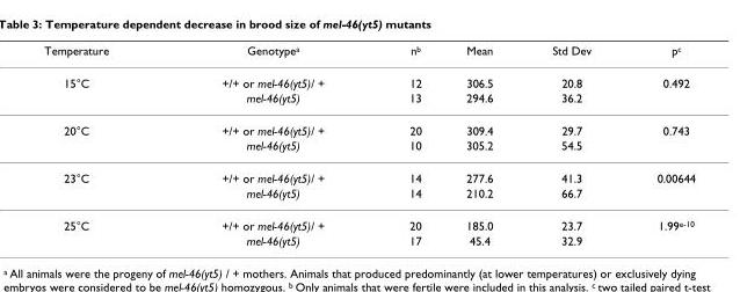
<table><thead><tr><td>Temperature</td><td>Genotype<sup>a</sup></td><td>n<sup>b</sup></td><td>Mean</td><td>Std Dev</td><td>p<sup>c</sup></td></tr></thead><tbody><tr><td rowspan="2">15°C</td><td>+/+ or mel-46(yt5)/ +</td><td>12</td><td>306.5</td><td>20.8</td><td>0.492</td></tr><tr><td>mel-46(yt5)</td><td>13</td><td>294.6</td><td>36.2</td><td></td></tr><tr><td rowspan="2">20°C</td><td>+/+ or mel-46(yt5)/ +</td><td>20</td><td>309.4</td><td>29.7</td><td>0.743</td></tr><tr><td>mel-46(yt5)</td><td>10</td><td>305.2</td><td>54.5</td><td></td></tr><tr><td rowspan="2">23°C</td><td>+/+ or mel-46(yt5)/ +</td><td>14</td><td>277.6</td><td>41.3</td><td>0.00644</td></tr><tr><td>mel-46(yt5)</td><td>14</td><td>210.2</td><td>66.7</td><td></td></tr><tr><td rowspan="2">25°C</td><td>+/+ or mel-46(yt5)/ +</td><td>20</td><td>185.0</td><td>23.7</td><td>1.99<sup>e-10</sup></td></tr><tr><td>mel-46(yt5)</td><td>17</td><td>45.4</td><td>32.9</td><td></td></tr></tbody></table>